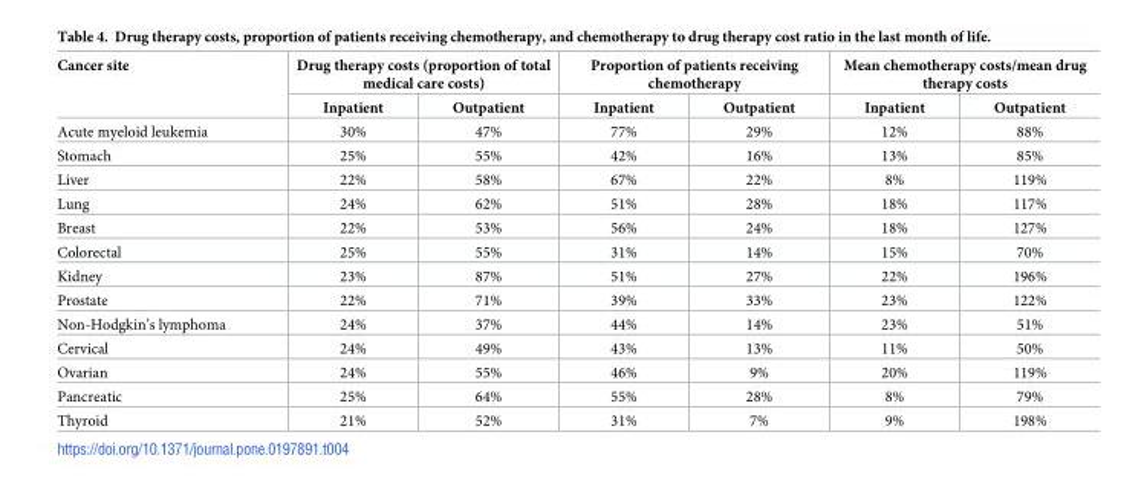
<table><thead><tr><td rowspan="2">Cancer site</td><td colspan="2">Drug therapy costs (proportion of total medical care costs)</td><td colspan="2">Proportion of patients receiving chemotherapy</td><td colspan="2">Mean chemotherapy costs/mean drug therapy costs</td></tr><tr><td>Inpatient</td><td>Outpatient</td><td>Inpatient</td><td>Outpatient</td><td>Inpatient</td><td>Outpatient</td></tr></thead><tbody><tr><td>Acute myeloid leukemia</td><td>30%</td><td>47%</td><td>77%</td><td>29%</td><td>12%</td><td>88%</td></tr><tr><td>Stomach</td><td>25%</td><td>55%</td><td>42%</td><td>16%</td><td>13%</td><td>85%</td></tr><tr><td>Liver</td><td>22%</td><td>58%</td><td>67%</td><td>22%</td><td>8%</td><td>119%</td></tr><tr><td>Lung</td><td>24%</td><td>62%</td><td>51%</td><td>28%</td><td>18%</td><td>117%</td></tr><tr><td>Breast</td><td>22%</td><td>53%</td><td>56%</td><td>24%</td><td>18%</td><td>127%</td></tr><tr><td>Colorectal</td><td>25%</td><td>55%</td><td>31%</td><td>14%</td><td>15%</td><td>70%</td></tr><tr><td>Kidney</td><td>23%</td><td>87%</td><td>51%</td><td>27%</td><td>22%</td><td>196%</td></tr><tr><td>Prostate</td><td>22%</td><td>71%</td><td>39%</td><td>33%</td><td>23%</td><td>122%</td></tr><tr><td>Non-Hodgkin’s lymphoma</td><td>24%</td><td>37%</td><td>44%</td><td>14%</td><td>23%</td><td>51%</td></tr><tr><td>Cervical</td><td>24%</td><td>49%</td><td>43%</td><td>13%</td><td>11%</td><td>50%</td></tr><tr><td>Ovarian</td><td>24%</td><td>55%</td><td>46%</td><td>9%</td><td>20%</td><td>119%</td></tr><tr><td>Pancreatic</td><td>25%</td><td>64%</td><td>55%</td><td>28%</td><td>8%</td><td>79%</td></tr><tr><td>Thyroid</td><td>21%</td><td>52%</td><td>31%</td><td>7%</td><td>9%</td><td>198%</td></tr></tbody></table>